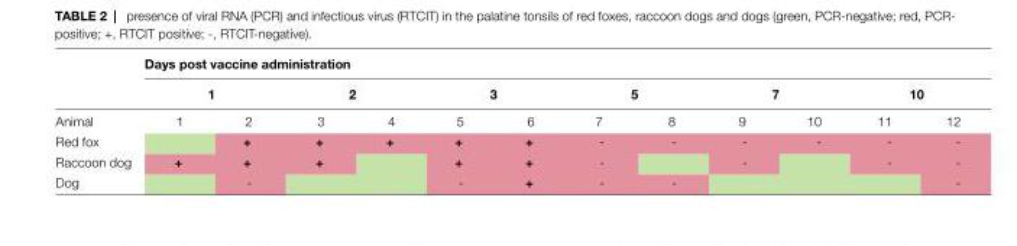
<table><thead><tr><td rowspan="3">Animal</td><td colspan="12">Days post vaccine administration</td></tr><tr><td colspan="2">1</td><td colspan="2">2</td><td colspan="2">3</td><td colspan="2">5</td><td colspan="2">7</td><td colspan="2">10</td></tr><tr><td>1</td><td>2</td><td>3</td><td>4</td><td>5</td><td>6</td><td>7</td><td>8</td><td>9</td><td>10</td><td>11</td><td>12</td></tr></thead><tbody><tr><td>Red fox</td><td></td><td>+</td><td>+</td><td>+</td><td>+</td><td>+</td><td>-</td><td>-</td><td>-</td><td>-</td><td>-</td><td>-</td></tr><tr><td>Raccoon dog</td><td>+</td><td>+</td><td>+</td><td></td><td>+</td><td>+</td><td>-</td><td></td><td>-</td><td></td><td>-</td><td>-</td></tr><tr><td>Dog</td><td></td><td>-</td><td></td><td></td><td>-</td><td>+</td><td>-</td><td>-</td><td></td><td></td><td></td><td>-</td></tr></tbody></table>